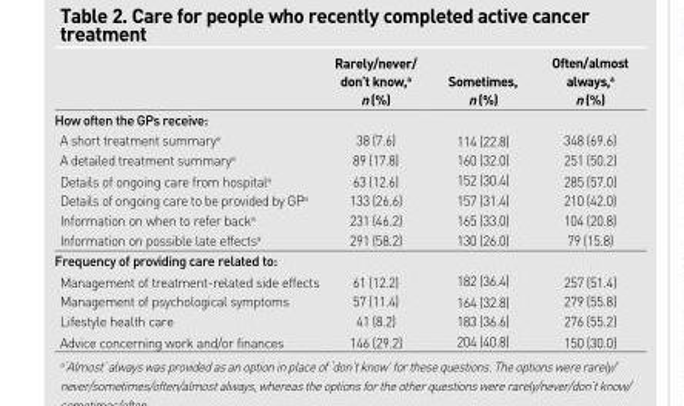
<table><thead><tr><td></td><td>Rarely/never/ don’t know,<sup>a</sup> n (%)</td><td>Sometimes, n (%)</td><td>Often/almost always,<sup>a</sup> n (%)</td></tr></thead><tbody><tr><td colspan="4">How often the GPs receive:</td></tr><tr><td>A short treatment summary<sup>a</sup></td><td>38 (7.6)</td><td>114 (22.8)</td><td>348 (69.6)</td></tr><tr><td>A detailed treatment summary<sup>a</sup></td><td>89 (17.8)</td><td>160 (32.0)</td><td>251 (50.2)</td></tr><tr><td>Details of ongoing care from hospital<sup>a</sup></td><td>63 (12.6)</td><td>152 (30.4)</td><td>285 (57.0)</td></tr><tr><td>Details of ongoing care to be provided by GP<sup>a</sup></td><td>133 (26.6)</td><td>157 (31.4)</td><td>210 (42.0)</td></tr><tr><td>Information on when to refer back<sup>a</sup></td><td>231 (46.2)</td><td>165 (33.0)</td><td>104 (20.8)</td></tr><tr><td>Information on possible late effects<sup>a</sup></td><td>291 (58.2)</td><td>130 (26.0)</td><td>79 (15.8)</td></tr><tr><td colspan="4">Frequency of providing care related to:</td></tr><tr><td>Management of treatment-related side effects</td><td>61 (12.2)</td><td>182 (36.4)</td><td>257 (51.4)</td></tr><tr><td>Management of psychological symptoms</td><td>57 (11.4)</td><td>164 (32.8)</td><td>279 (55.8)</td></tr><tr><td>Lifestyle health care</td><td>41 (8.2)</td><td>183 (36.6)</td><td>276 (55.2)</td></tr><tr><td>Advice concerning work and/or finances</td><td>146 (29.2)</td><td>204 (40.8)</td><td>150 (30.0)</td></tr></tbody></table>